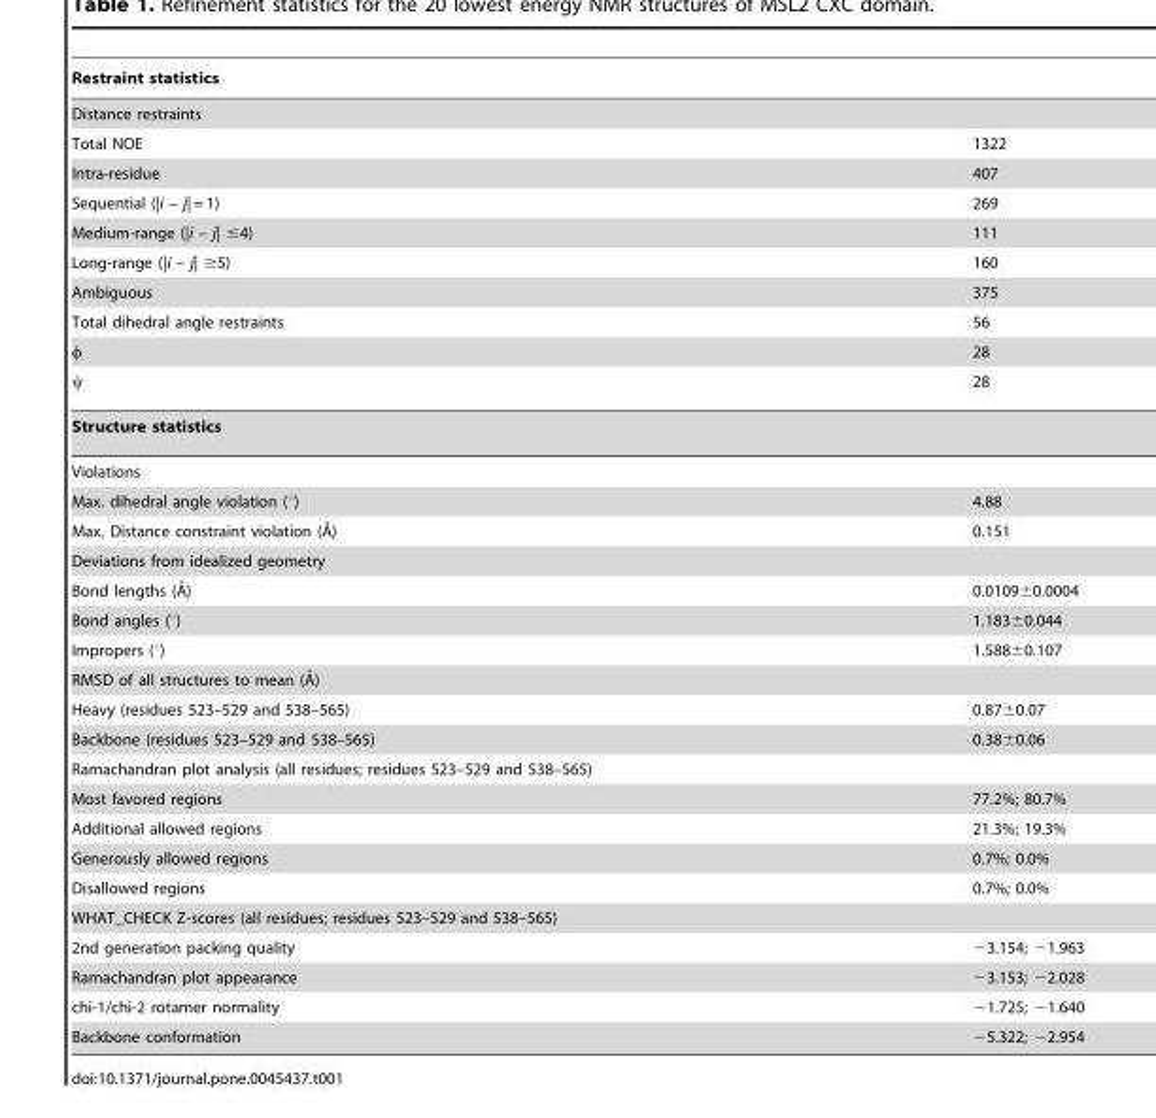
<table><thead><tr><td>Restraint statistics</td><td></td></tr></thead><tbody><tr><td colspan="2">Distance restraints</td></tr><tr><td>Total NOE</td><td>1322</td></tr><tr><td>Intra-residue</td><td>407</td></tr><tr><td>Sequential (|i – j| = 1)</td><td>269</td></tr><tr><td>Medium-range (|i – j| ≤4)</td><td>111</td></tr><tr><td>Long-range (|i – j| ≥5)</td><td>160</td></tr><tr><td>Ambiguous</td><td>375</td></tr><tr><td>Total dihedral angle restraints</td><td>56</td></tr><tr><td>φ</td><td>28</td></tr><tr><td>ψ</td><td>28</td></tr><tr><td colspan="2">Structure statistics</td></tr><tr><td colspan="2">Violations</td></tr><tr><td>Max. dihedral angle violation (°)</td><td>4.88</td></tr><tr><td>Max. Distance constraint violation (A˚)</td><td>0.151</td></tr><tr><td colspan="2">Deviations from idealized geometry</td></tr><tr><td>Bond lengths (A˚)</td><td>0.0109±0.0004</td></tr><tr><td>Bond angles (°)</td><td>1.183±0.044</td></tr><tr><td>Impropers (°)</td><td>1.588±0.107</td></tr><tr><td colspan="2">RMSD of all structures to mean (A˚)</td></tr><tr><td>Heavy (residues 523–529 and 538–565)</td><td>0.87±0.07</td></tr><tr><td>Backbone (residues 523–529 and 538–565)</td><td>0.38±0.06</td></tr><tr><td colspan="2">Ramachandran plot analysis (all residues; residues 523–529 and 538–565)</td></tr><tr><td>Most favored regions</td><td>77.2%; 80.7%</td></tr><tr><td>Additional allowed regions</td><td>21.3%; 19.3%</td></tr><tr><td>Generously allowed regions</td><td>0.7%; 0.0%</td></tr><tr><td>Disallowed regions</td><td>0.7%; 0.0%</td></tr><tr><td colspan="2">WHAT_CHECK Z-scores (all residues; residues 523–529 and 538–565)</td></tr><tr><td>2nd generation packing quality</td><td>−3.154; −1.963</td></tr><tr><td>Ramachandran plot appearance</td><td>−3.153; −2.028</td></tr><tr><td>chi-1/chi-2 rotamer normality</td><td>−1.725; −1.640</td></tr><tr><td>Backbone conformation</td><td>−5.322; −2.954</td></tr></tbody></table>